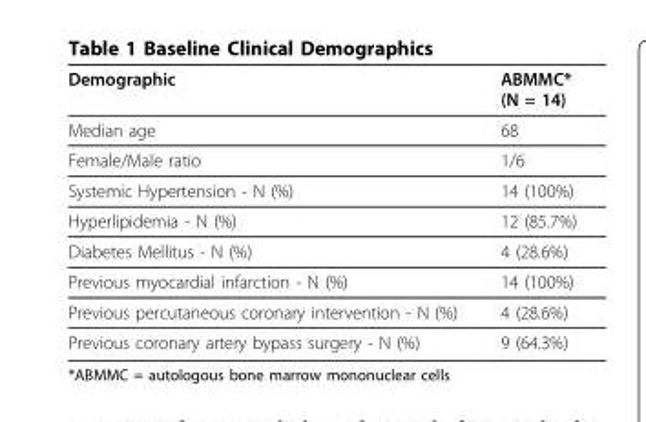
<table><thead><tr><td>Demographic</td><td>ABMMC* (N = 14)</td></tr></thead><tbody><tr><td>Median age</td><td>68</td></tr><tr><td>Female/Male ratio</td><td>1/6</td></tr><tr><td>Systemic Hypertension - N (%)</td><td>14 (100%)</td></tr><tr><td>Hyperlipidemia - N (%)</td><td>12 (85.7%)</td></tr><tr><td>Diabetes Mellitus - N (%)</td><td>4 (28.6%)</td></tr><tr><td>Previous myocardial infarction - N (%)</td><td>14 (100%)</td></tr><tr><td>Previous percutaneous coronary intervention - N (%)</td><td>4 (28.6%)</td></tr><tr><td>Previous coronary artery bypass surgery - N (%)</td><td>9 (64.3%)</td></tr></tbody></table>